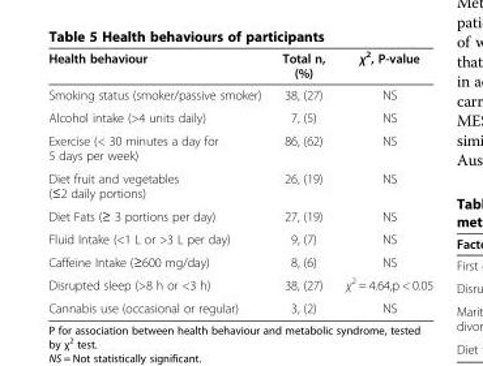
<table><thead><tr><td>Health behaviour</td><td>Total n, (%)</td><td>χ<sup>2</sup>, P-value</td></tr></thead><tbody><tr><td>Smoking status (smoker/passive smoker)</td><td>38, (27)</td><td>NS</td></tr><tr><td>Alcohol intake (&gt;4 units daily)</td><td>7, (5)</td><td>NS</td></tr><tr><td>Exercise (&lt; 30 minutes a day for 5 days per week)</td><td>86, (62)</td><td>NS</td></tr><tr><td>Diet fruit and vegetables (≤2 daily portions)</td><td>26, (19)</td><td>NS</td></tr><tr><td>Diet Fats (≥ 3 portions per day)</td><td>27, (19)</td><td>NS</td></tr><tr><td>Fluid Intake (&lt;1 L or &gt;3 L per day)</td><td>9, (7)</td><td>NS</td></tr><tr><td>Caffeine Intake (≥600 mg/day)</td><td>8, (6)</td><td>NS</td></tr><tr><td>Disrupted sleep (&gt;8 h or &lt;3 h)</td><td>38, (27)</td><td>χ<sup>2</sup> = 4.64,p &lt; 0.05</td></tr><tr><td>Cannabis use (occasional or regular)</td><td>3, (2)</td><td>NS</td></tr></tbody></table>